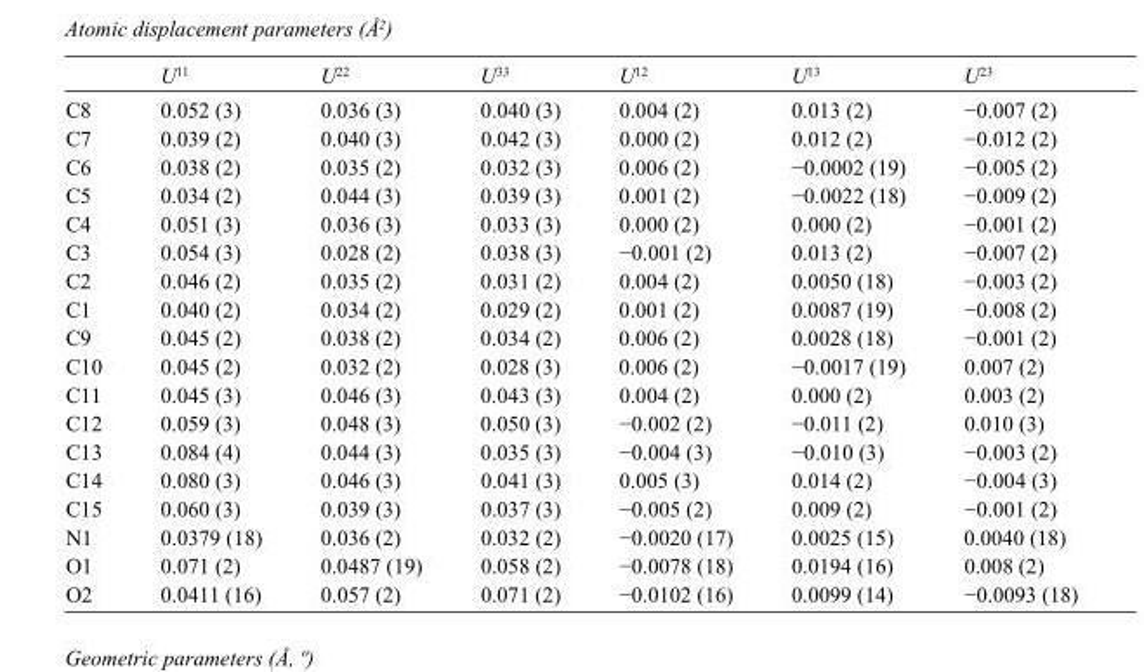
<table><thead><tr><td></td><td>U<sup>11</sup></td><td>U<sup>22</sup></td><td>U<sup>33</sup></td><td>U<sup>12</sup></td><td>U<sup>13</sup></td><td>U<sup>23</sup></td></tr></thead><tbody><tr><td>C8</td><td>0.052 (3)</td><td>0.036 (3)</td><td>0.040 (3)</td><td>0.004 (2)</td><td>0.013 (2)</td><td>−0.007 (2)</td></tr><tr><td>C7</td><td>0.039 (2)</td><td>0.040 (3)</td><td>0.042 (3)</td><td>0.000 (2)</td><td>0.012 (2)</td><td>−0.012 (2)</td></tr><tr><td>C6</td><td>0.038 (2)</td><td>0.035 (2)</td><td>0.032 (3)</td><td>0.006 (2)</td><td>−0.0002 (19)</td><td>−0.005 (2)</td></tr><tr><td>C5</td><td>0.034 (2)</td><td>0.044 (3)</td><td>0.039 (3)</td><td>0.001 (2)</td><td>−0.0022 (18)</td><td>−0.009 (2)</td></tr><tr><td>C4</td><td>0.051 (3)</td><td>0.036 (3)</td><td>0.033 (3)</td><td>0.000 (2)</td><td>0.000 (2)</td><td>−0.001 (2)</td></tr><tr><td>C3</td><td>0.054 (3)</td><td>0.028 (2)</td><td>0.038 (3)</td><td>−0.001 (2)</td><td>0.013 (2)</td><td>−0.007 (2)</td></tr><tr><td>C2</td><td>0.046 (2)</td><td>0.035 (2)</td><td>0.031 (2)</td><td>0.004 (2)</td><td>0.0050 (18)</td><td>−0.003 (2)</td></tr><tr><td>C1</td><td>0.040 (2)</td><td>0.034 (2)</td><td>0.029 (2)</td><td>0.001 (2)</td><td>0.0087 (19)</td><td>−0.008 (2)</td></tr><tr><td>C9</td><td>0.045 (2)</td><td>0.038 (2)</td><td>0.034 (2)</td><td>0.006 (2)</td><td>0.0028 (18)</td><td>−0.001 (2)</td></tr><tr><td>C10</td><td>0.045 (2)</td><td>0.032 (2)</td><td>0.028 (3)</td><td>0.006 (2)</td><td>−0.0017 (19)</td><td>0.007 (2)</td></tr><tr><td>C11</td><td>0.045 (3)</td><td>0.046 (3)</td><td>0.043 (3)</td><td>0.004 (2)</td><td>0.000 (2)</td><td>0.003 (2)</td></tr><tr><td>C12</td><td>0.059 (3)</td><td>0.048 (3)</td><td>0.050 (3)</td><td>−0.002 (2)</td><td>−0.011 (2)</td><td>0.010 (3)</td></tr><tr><td>C13</td><td>0.084 (4)</td><td>0.044 (3)</td><td>0.035 (3)</td><td>−0.004 (3)</td><td>−0.010 (3)</td><td>−0.003 (2)</td></tr><tr><td>C14</td><td>0.080 (3)</td><td>0.046 (3)</td><td>0.041 (3)</td><td>0.005 (3)</td><td>0.014 (2)</td><td>−0.004 (3)</td></tr><tr><td>C15</td><td>0.060 (3)</td><td>0.039 (3)</td><td>0.037 (3)</td><td>−0.005 (2)</td><td>0.009 (2)</td><td>−0.001 (2)</td></tr><tr><td>N1</td><td>0.0379 (18)</td><td>0.036 (2)</td><td>0.032 (2)</td><td>−0.0020 (17)</td><td>0.0025 (15)</td><td>0.0040 (18)</td></tr><tr><td>O1</td><td>0.071 (2)</td><td>0.0487 (19)</td><td>0.058 (2)</td><td>−0.0078 (18)</td><td>0.0194 (16)</td><td>0.008 (2)</td></tr><tr><td>O2</td><td>0.0411 (16)</td><td>0.057 (2)</td><td>0.071 (2)</td><td>−0.0102 (16)</td><td>0.0099 (14)</td><td>−0.0093 (18)</td></tr></tbody></table>